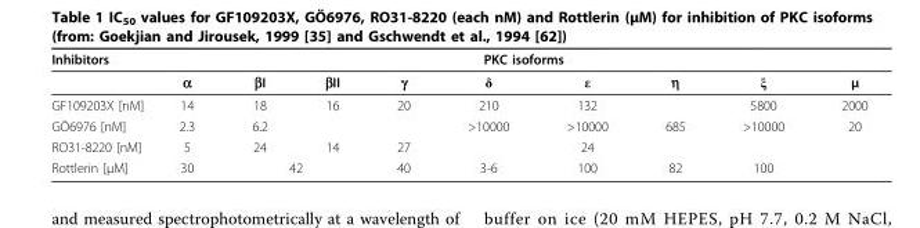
<table><thead><tr><td rowspan="2">Inhibitors</td><td colspan="9">PKC isoforms</td></tr><tr><td>α</td><td>βI</td><td>βII</td><td>γ</td><td>δ</td><td>ε</td><td>η</td><td>ξ</td><td>μ</td></tr></thead><tbody><tr><td>GF109203X [nM]</td><td>14</td><td>18</td><td>16</td><td>20</td><td>210</td><td>132</td><td></td><td>5800</td><td>2000</td></tr><tr><td>GÖ6976 [nM]</td><td>2.3</td><td>6.2</td><td></td><td></td><td>&gt;10000</td><td>&gt;10000</td><td>685</td><td>&gt;10000</td><td>20</td></tr><tr><td>RO31-8220 [nM]</td><td>5</td><td>24</td><td>14</td><td>27</td><td></td><td>24</td><td></td><td></td><td></td></tr><tr><td>Rottlerin [μM]</td><td>30</td><td colspan="2">42</td><td>40</td><td>3-6</td><td>100</td><td>82</td><td>100</td><td></td></tr></tbody></table>